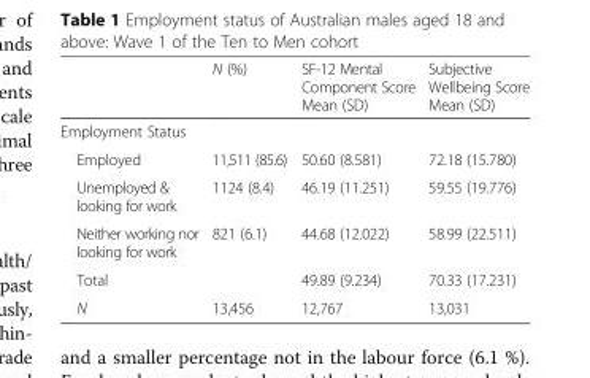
<table><thead><tr><td></td><td>N (%)</td><td>SF-12 Mental Component Score Mean (SD)</td><td>Subjective Wellbeing Score Mean (SD)</td></tr></thead><tbody><tr><td colspan="4">Employment Status</td></tr><tr><td>Employed</td><td>11,511 (85.6)</td><td>50.60 (8.581)</td><td>72.18 (15.780)</td></tr><tr><td>Unemployed &amp; looking for work</td><td>1124 (8.4)</td><td>46.19 (11.251)</td><td>59.55 (19.776)</td></tr><tr><td>Neither working nor looking for work</td><td>821 (6.1)</td><td>44.68 (12.022)</td><td>58.99 (22.511)</td></tr><tr><td>Total</td><td></td><td>49.89 (9.234)</td><td>70.33 (17.231)</td></tr><tr><td>N</td><td>13,456</td><td>12,767</td><td>13,031</td></tr></tbody></table>